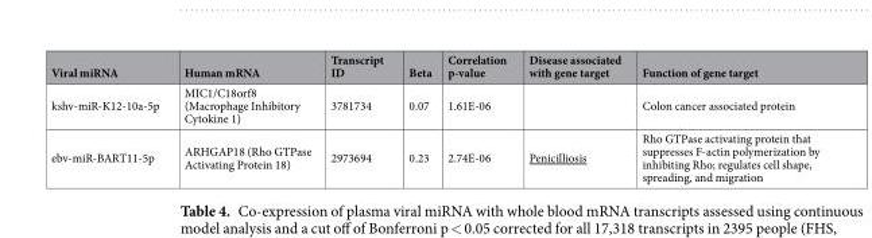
<table><thead><tr><td>Viral miRNA</td><td>Human mRNA</td><td>Transcript ID</td><td>Beta</td><td>Correlation p-value</td><td>Disease associated with gene target</td><td>Function of gene target</td></tr></thead><tbody><tr><td>kshv-miR-K12-10a-5p</td><td>MIC1/C18orf8 (Macrophage Inhibitory Cytokine 1)</td><td>3781734</td><td>0.07</td><td>1.61E-06</td><td></td><td>Colon cancer associated protein</td></tr><tr><td>ebv-miR-BART11-5p</td><td>ARHGAP18 (Rho GTPase Activating Protein 18)</td><td>2973694</td><td>0.23</td><td>2.74E-06</td><td>Penicilliosis</td><td>Rho GTPase activating protein that suppresses F-actin polymerization by inhibiting Rho; regulates cell shape, spreading, and migration</td></tr></tbody></table>